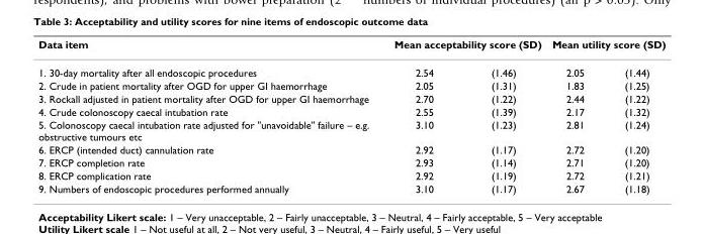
<table><thead><tr><td rowspan="2">Data item 1. 30-day mortality after all endoscopic procedures</td><td colspan="2">Mean acceptability score (SD)</td><td colspan="2">Mean utility score (SD)</td></tr><tr><td>2.54</td><td>(1.46)</td><td>2.05</td><td>(1.44)</td></tr></thead><tbody><tr><td>2. Crude in patient mortality after OGD for upper GI haemorrhage</td><td>2.05</td><td>(1.31)</td><td>1.83</td><td>(1.25)</td></tr><tr><td>3. Rockall adjusted in patient mortality after OGD for upper GI haemorrhage</td><td>2.70</td><td>(1.22)</td><td>2.44</td><td>(1.22)</td></tr><tr><td>4. Crude colonoscopy caecal intubation rate</td><td>2.55</td><td>(1.39)</td><td>2.17</td><td>(1.32)</td></tr><tr><td>5. Colonoscopy caecal intubation rate adjusted for &quot;unavoidable&quot; failure – e.g. obstructive tumours etc</td><td>3.10</td><td>(1.23)</td><td>2.81</td><td>(1.24)</td></tr><tr><td>6. ERCP (intended duct) cannulation rate</td><td>2.92</td><td>(1.17)</td><td>2.72</td><td>(1.20)</td></tr><tr><td>7. ERCP completion rate</td><td>2.93</td><td>(1.14)</td><td>2.71</td><td>(1.20)</td></tr><tr><td>8. ERCP complication rate</td><td>2.92</td><td>(1.19)</td><td>2.72</td><td>(1.21)</td></tr><tr><td>9. Numbers of endoscopic procedures performed annually</td><td>3.10</td><td>(1.17)</td><td>2.67</td><td>(1.18)</td></tr></tbody></table>